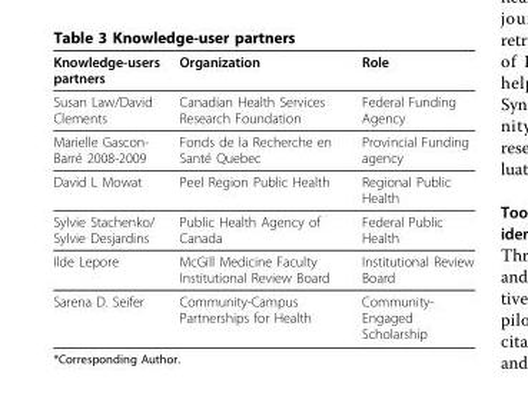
<table><thead><tr><td>Knowledge-users partners</td><td>Organization</td><td>Role</td></tr></thead><tbody><tr><td>Susan Law/David Clements</td><td>Canadian Health Services Research Foundation</td><td>Federal Funding Agency</td></tr><tr><td>Marielle Gascon- Barré 2008-2009</td><td>Fonds de la Recherche en Santé Quebec</td><td>Provincial Funding agency</td></tr><tr><td>David L Mowat</td><td>Peel Region Public Health</td><td>Regional Public Health</td></tr><tr><td>Sylvie Stachenko/ Sylvie Desjardins</td><td>Public Health Agency of Canada</td><td>Federal Public Health</td></tr><tr><td>Ilde Lepore</td><td>McGill Medicine Faculty Institutional Review Board</td><td>Institutional Review Board</td></tr><tr><td>Sarena D. Seifer</td><td>Community-Campus Partnerships for Health</td><td>Community- Engaged Scholarship</td></tr></tbody></table>